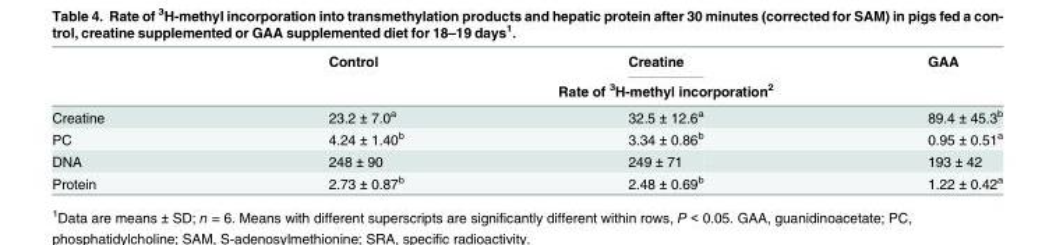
<table><thead><tr><td rowspan="2"></td><td>Control</td><td>Creatine</td><td>GAA</td></tr><tr><td colspan="3">Rate of <sup>3</sup>H-methyl incorporation<sup>2</sup></td></tr></thead><tbody><tr><td>Creatine</td><td>23.2 ± 7.0<sup>a</sup></td><td>32.5 ± 12.6<sup>a</sup></td><td>89.4 ± 45.3<sup>b</sup></td></tr><tr><td>PC</td><td>4.24 ± 1.40<sup>b</sup></td><td>3.34 ± 0.86<sup>b</sup></td><td>0.95 ± 0.51<sup>a</sup></td></tr><tr><td>DNA</td><td>248 ± 90</td><td>249 ± 71</td><td>193 ± 42</td></tr><tr><td>Protein</td><td>2.73 ± 0.87<sup>b</sup></td><td>2.48 ± 0.69<sup>b</sup></td><td>1.22 ± 0.42<sup>a</sup></td></tr></tbody></table>